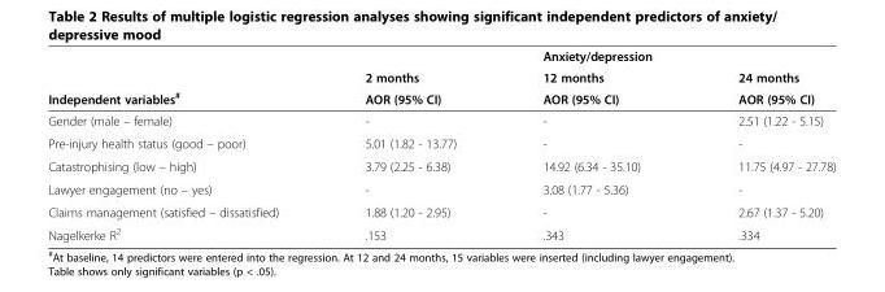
<table><thead><tr><td rowspan="3">Independent variables<sup>#</sup></td><td rowspan="3">2 months AOR (95% CI)</td><td rowspan="3">Anxiety/depression 12 months AOR (95% CI)</td><td rowspan="3">24 months AOR (95% CI)</td></tr><tr></tr><tr></tr></thead><tbody><tr><td>Gender (male – female)</td><td>-</td><td>-</td><td>2.51 (1.22 - 5.15)</td></tr><tr><td>Pre-injury health status (good – poor)</td><td>5.01 (1.82 - 13.77)</td><td>-</td><td>-</td></tr><tr><td>Catastrophising (low – high)</td><td>3.79 (2.25 - 6.38)</td><td>14.92 (6.34 - 35.10)</td><td>11.75 (4.97 - 27.78)</td></tr><tr><td>Lawyer engagement (no – yes)</td><td>-</td><td>3.08 (1.77 - 5.36)</td><td>-</td></tr><tr><td>Claims management (satisfied – dissatisfied)</td><td>1.88 (1.20 - 2.95)</td><td>-</td><td>2.67 (1.37 - 5.20)</td></tr><tr><td>Nagelkerke R<sup>2</sup></td><td>.153</td><td>.343</td><td>.334</td></tr></tbody></table>